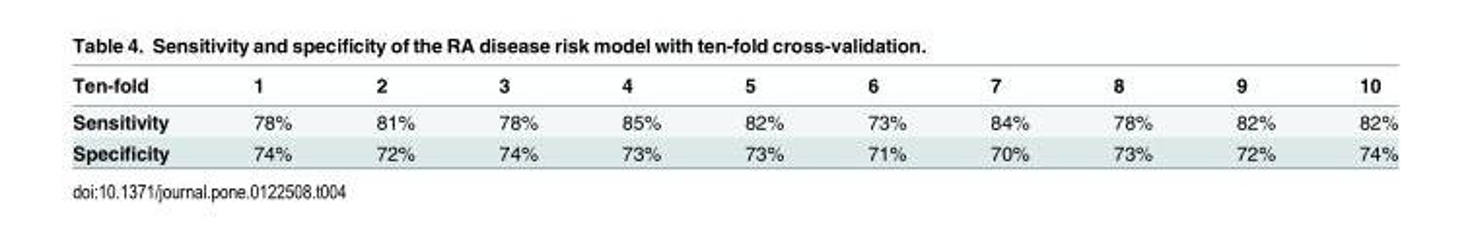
<table><thead><tr><td>Ten-fold</td><td>1</td><td>2</td><td>3</td><td>4</td><td>5</td><td>6</td><td>7</td><td>8</td><td>9</td><td>10</td></tr></thead><tbody><tr><td>Sensitivity</td><td>78%</td><td>81%</td><td>78%</td><td>85%</td><td>82%</td><td>73%</td><td>84%</td><td>78%</td><td>82%</td><td>82%</td></tr><tr><td>Specificity</td><td>74%</td><td>72%</td><td>74%</td><td>73%</td><td>73%</td><td>71%</td><td>70%</td><td>73%</td><td>72%</td><td>74%</td></tr></tbody></table>